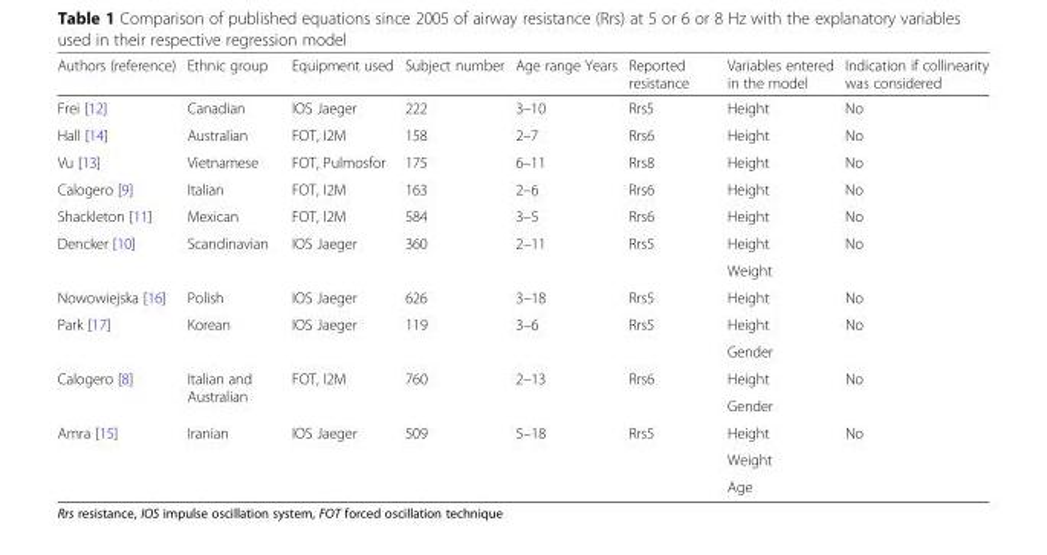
<table><thead><tr><td>Authors (reference)</td><td>Ethnic group</td><td>Equipment used</td><td>Subject number</td><td>Age range Years</td><td>Reported resistance</td><td>Variables entered in the model</td><td>Indication if collinearity was considered</td></tr></thead><tbody><tr><td>Frei [12]</td><td>Canadian</td><td>IOS Jaeger</td><td>222</td><td>3–10</td><td>Rrs5</td><td>Height</td><td>No</td></tr><tr><td>Hall [14]</td><td>Australian</td><td>FOT, I2M</td><td>158</td><td>2–7</td><td>Rrs6</td><td>Height</td><td>No</td></tr><tr><td>Vu [13]</td><td>Vietnamese</td><td>FOT, Pulmosfor</td><td>175</td><td>6–11</td><td>Rrs8</td><td>Height</td><td>No</td></tr><tr><td>Calogero [9]</td><td>Italian</td><td>FOT, I2M</td><td>163</td><td>2–6</td><td>Rrs6</td><td>Height</td><td>No</td></tr><tr><td>Shackleton [11]</td><td>Mexican</td><td>FOT, I2M</td><td>584</td><td>3–5</td><td>Rrs6</td><td>Height</td><td>No</td></tr><tr><td rowspan="2">Dencker [10]</td><td rowspan="2">Scandinavian</td><td rowspan="2">IOS Jaeger</td><td rowspan="2">360</td><td rowspan="2">2–11</td><td rowspan="2">Rrs5</td><td>Height</td><td rowspan="2">No</td></tr><tr><td>Weight</td></tr><tr><td>Nowowiejska [16]</td><td>Polish</td><td>IOS Jaeger</td><td>626</td><td>3–18</td><td>Rrs5</td><td>Height</td><td>No</td></tr><tr><td rowspan="2">Park [17]</td><td rowspan="2">Korean</td><td rowspan="2">IOS Jaeger</td><td rowspan="2">119</td><td rowspan="2">3–6</td><td rowspan="2">Rrs5</td><td>Height</td><td rowspan="2">No</td></tr><tr><td>Gender</td></tr><tr><td rowspan="2">Calogero [8]</td><td rowspan="2">Italian and Australian</td><td rowspan="2">FOT, I2M</td><td rowspan="2">760</td><td rowspan="2">2–13</td><td rowspan="2">Rrs6</td><td>Height</td><td rowspan="2">No</td></tr><tr><td>Gender</td></tr><tr><td rowspan="3">Amra [15]</td><td rowspan="3">Iranian</td><td rowspan="3">IOS Jaeger</td><td rowspan="3">509</td><td rowspan="3">5–18</td><td rowspan="3">Rrs5</td><td>Height</td><td rowspan="3">No</td></tr><tr><td>Weight</td></tr><tr><td>Age</td></tr></tbody></table>